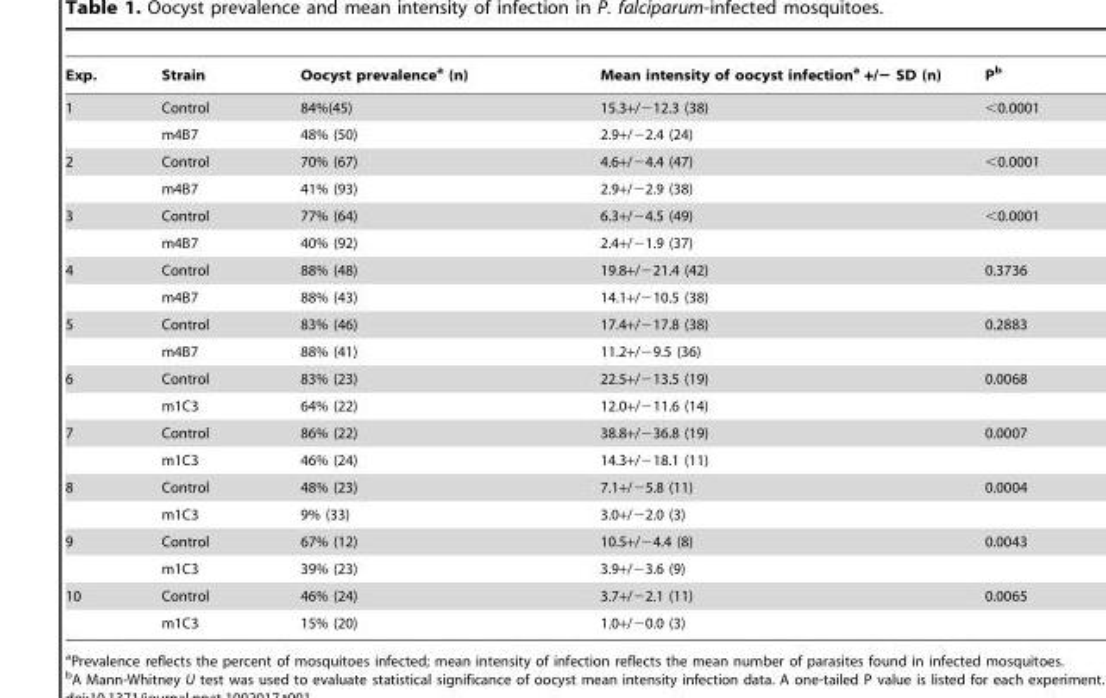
<table><thead><tr><td>Exp.</td><td>Strain</td><td>Oocyst prevalence<sup>a</sup> (n)</td><td>Mean intensity of oocyst infection<sup>a</sup> +/− SD (n)</td><td>P<sup>b</sup></td></tr></thead><tbody><tr><td rowspan="2">1</td><td>Control</td><td>84%(45)</td><td>15.3+/−12.3 (38)</td><td>&lt;0.0001</td></tr><tr><td>m4B7</td><td>48% (50)</td><td>2.9+/−2.4 (24)</td><td></td></tr><tr><td rowspan="2">2</td><td>Control</td><td>70% (67)</td><td>4.6+/−4.4 (47)</td><td>&lt;0.0001</td></tr><tr><td>m4B7</td><td>41% (93)</td><td>2.9+/−2.9 (38)</td><td></td></tr><tr><td rowspan="2">3</td><td>Control</td><td>77% (64)</td><td>6.3+/−4.5 (49)</td><td>&lt;0.0001</td></tr><tr><td>m4B7</td><td>40% (92)</td><td>2.4+/−1.9 (37)</td><td></td></tr><tr><td rowspan="2">4</td><td>Control</td><td>88% (48)</td><td>19.8+/−21.4 (42)</td><td>0.3736</td></tr><tr><td>m4B7</td><td>88% (43)</td><td>14.1+/−10.5 (38)</td><td></td></tr><tr><td rowspan="2">5</td><td>Control</td><td>83% (46)</td><td>17.4+/−17.8 (38)</td><td>0.2883</td></tr><tr><td>m4B7</td><td>88% (41)</td><td>11.2+/−9.5 (36)</td><td></td></tr><tr><td rowspan="2">6</td><td>Control</td><td>83% (23)</td><td>22.5+/−13.5 (19)</td><td>0.0068</td></tr><tr><td>m1C3</td><td>64% (22)</td><td>12.0+/−11.6 (14)</td><td></td></tr><tr><td rowspan="2">7</td><td>Control</td><td>86% (22)</td><td>38.8+/−36.8 (19)</td><td>0.0007</td></tr><tr><td>m1C3</td><td>46% (24)</td><td>14.3+/−18.1 (11)</td><td></td></tr><tr><td rowspan="2">8</td><td>Control</td><td>48% (23)</td><td>7.1+/−5.8 (11)</td><td>0.0004</td></tr><tr><td>m1C3</td><td>9% (33)</td><td>3.0+/−2.0 (3)</td><td></td></tr><tr><td rowspan="2">9</td><td>Control</td><td>67% (12)</td><td>10.5+/−4.4 (8)</td><td>0.0043</td></tr><tr><td>m1C3</td><td>39% (23)</td><td>3.9+/−3.6 (9)</td><td></td></tr><tr><td rowspan="2">10</td><td>Control</td><td>46% (24)</td><td>3.7+/−2.1 (11)</td><td>0.0065</td></tr><tr><td>m1C3</td><td>15% (20)</td><td>1.0+/−0.0 (3)</td><td></td></tr></tbody></table>